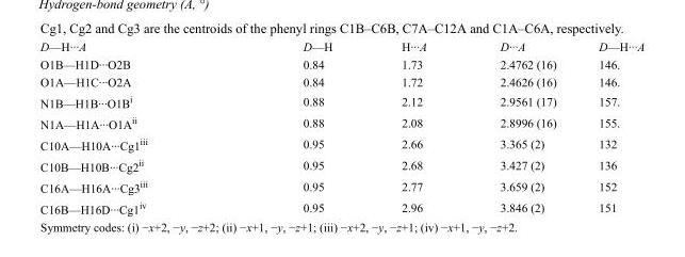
<table><tbody><tr><td>D—H···A</td><td>D—H</td><td>H···A</td><td>D···A</td><td>D—H···A</td></tr><tr><td>O1B—H1D···O2B</td><td>0.84</td><td>1.73</td><td>2.4762 (16)</td><td>146.</td></tr><tr><td>O1A—H1C···O2A</td><td>0.84</td><td>1.72</td><td>2.4626 (16)</td><td>146.</td></tr><tr><td>N1B—H1B···O1B<sup>i</sup></td><td>0.88</td><td>2.12</td><td>2.9561 (17)</td><td>157.</td></tr><tr><td>N1A—H1A···O1A<sup>ii</sup></td><td>0.88</td><td>2.08</td><td>2.8996 (16)</td><td>155.</td></tr><tr><td>C10A—H10A···Cg1<sup>iii</sup></td><td>0.95</td><td>2.66</td><td>3.365 (2)</td><td>132</td></tr><tr><td>C10B—H10B···Cg2<sup>ii</sup></td><td>0.95</td><td>2.68</td><td>3.427 (2)</td><td>136</td></tr><tr><td>C16A—H16A···Cg3<sup>iii</sup></td><td>0.95</td><td>2.77</td><td>3.659 (2)</td><td>152</td></tr><tr><td>C16B—H16D···Cg1<sup>iv</sup></td><td>0.95</td><td>2.96</td><td>3.846 (2)</td><td>151</td></tr></tbody></table>